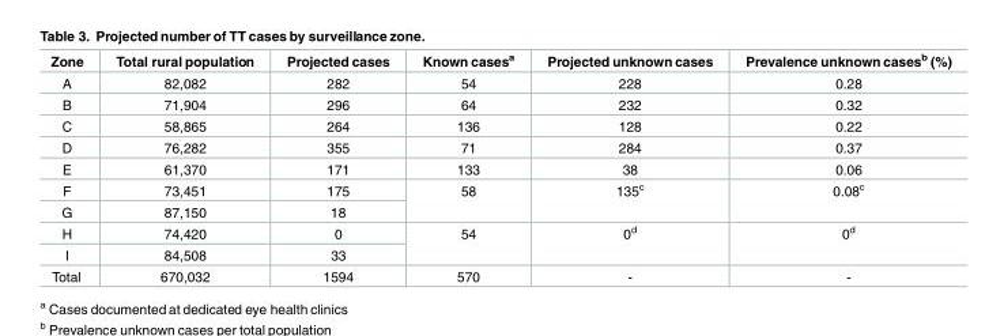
<table><thead><tr><td>Zone</td><td>Total rural population</td><td>Projected cases</td><td>Known cases<sup>a</sup></td><td>Projected unknown cases</td><td>Prevalence unknown cases<sup>b</sup> (%)</td></tr></thead><tbody><tr><td>A</td><td>82,082</td><td>282</td><td>54</td><td>228</td><td>0.28</td></tr><tr><td>B</td><td>71,904</td><td>296</td><td>64</td><td>232</td><td>0.32</td></tr><tr><td>C</td><td>58,865</td><td>264</td><td>136</td><td>128</td><td>0.22</td></tr><tr><td>D</td><td>76,282</td><td>355</td><td>71</td><td>284</td><td>0.37</td></tr><tr><td>E</td><td>61,370</td><td>171</td><td>133</td><td>38</td><td>0.06</td></tr><tr><td>F</td><td>73,451</td><td>175</td><td rowspan="2">58</td><td rowspan="2">135<sup>c</sup></td><td rowspan="2">0.08<sup>c</sup></td></tr><tr><td>G</td><td>87,150</td><td>18</td></tr><tr><td>H</td><td>74,420</td><td>0</td><td rowspan="2">54</td><td rowspan="2">0<sup>d</sup></td><td rowspan="2">0<sup>d</sup></td></tr><tr><td>I</td><td>84,508</td><td>33</td></tr><tr><td>Total</td><td>670,032</td><td>1594</td><td>570</td><td>-</td><td>-</td></tr></tbody></table>